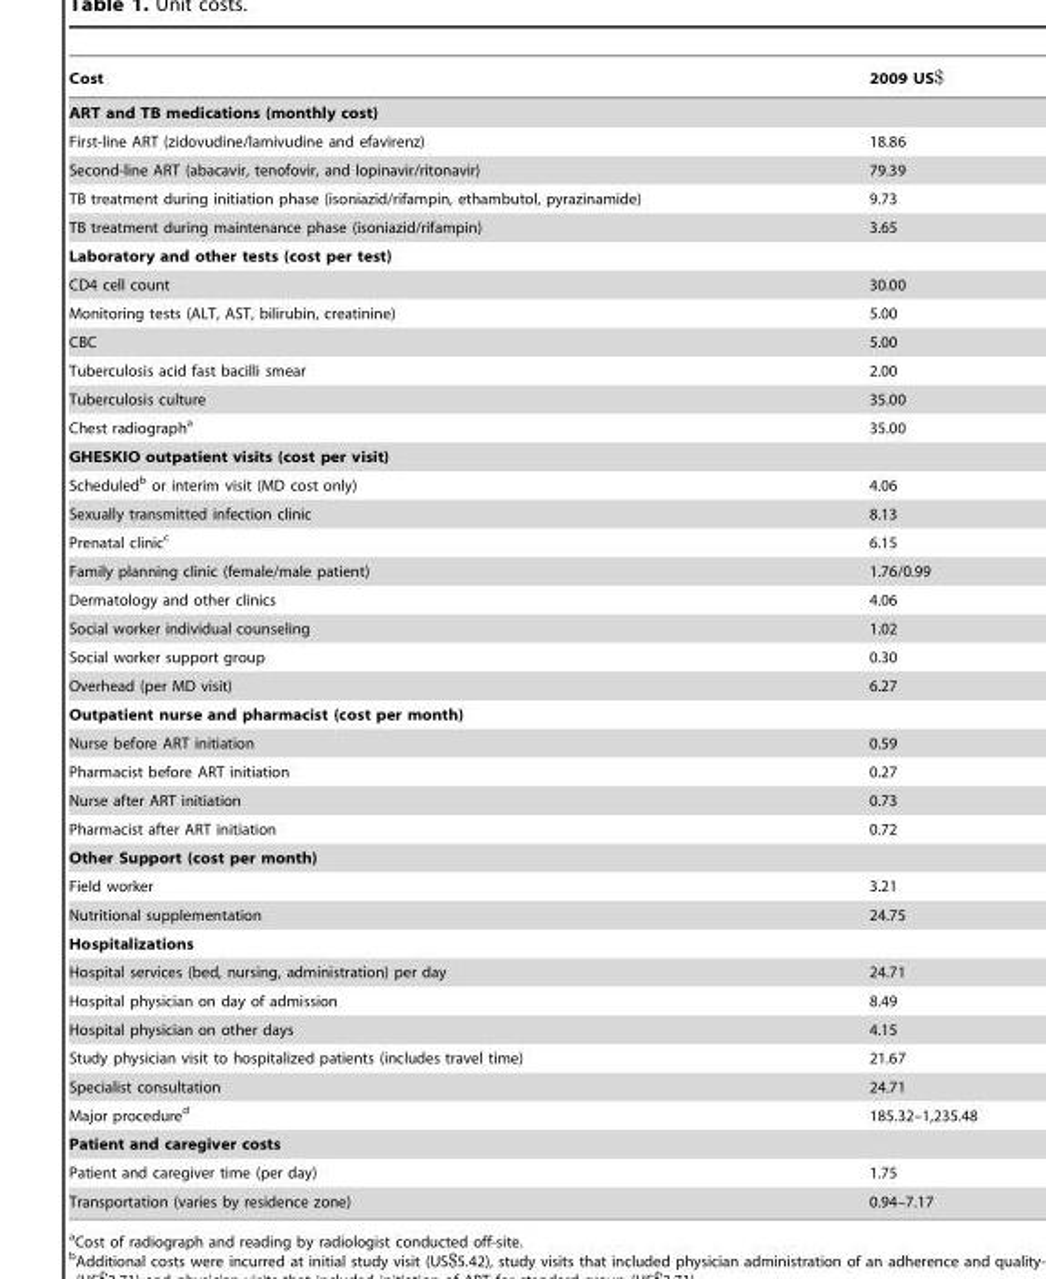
<table><thead><tr><td>Cost</td><td>2009 US$</td></tr></thead><tbody><tr><td colspan="2">ART and TB medications (monthly cost)</td></tr><tr><td>First-line ART (zidovudine/lamivudine and efavirenz)</td><td>18.86</td></tr><tr><td>Second-line ART (abacavir, tenofovir, and lopinavir/ritonavir)</td><td>79.39</td></tr><tr><td>TB treatment during initiation phase (isoniazid/rifampin, ethambutol, pyrazinamide)</td><td>9.73</td></tr><tr><td>TB treatment during maintenance phase (isoniazid/rifampin)</td><td>3.65</td></tr><tr><td colspan="2">Laboratory and other tests (cost per test)</td></tr><tr><td>CD4 cell count</td><td>30.00</td></tr><tr><td>Monitoring tests (ALT, AST, bilirubin, creatinine)</td><td>5.00</td></tr><tr><td>CBC</td><td>5.00</td></tr><tr><td>Tuberculosis acid fast bacilli smear</td><td>2.00</td></tr><tr><td>Tuberculosis culture</td><td>35.00</td></tr><tr><td>Chest radiograph<sup>a</sup></td><td>35.00</td></tr><tr><td colspan="2">GHESKIO outpatient visits (cost per visit)</td></tr><tr><td>Scheduled<sup>b</sup> or interim visit (MD cost only)</td><td>4.06</td></tr><tr><td>Sexually transmitted infection clinic</td><td>8.13</td></tr><tr><td>Prenatal clinic<sup>c</sup></td><td>6.15</td></tr><tr><td>Family planning clinic (female/male patient)</td><td>1.76/0.99</td></tr><tr><td>Dermatology and other clinics</td><td>4.06</td></tr><tr><td>Social worker individual counseling</td><td>1.02</td></tr><tr><td>Social worker support group</td><td>0.30</td></tr><tr><td>Overhead (per MD visit)</td><td>6.27</td></tr><tr><td colspan="2">Outpatient nurse and pharmacist (cost per month)</td></tr><tr><td>Nurse before ART initiation</td><td>0.59</td></tr><tr><td>Pharmacist before ART initiation</td><td>0.27</td></tr><tr><td>Nurse after ART initiation</td><td>0.73</td></tr><tr><td>Pharmacist after ART initiation</td><td>0.72</td></tr><tr><td colspan="2">Other Support (cost per month)</td></tr><tr><td>Field worker</td><td>3.21</td></tr><tr><td>Nutritional supplementation</td><td>24.75</td></tr><tr><td colspan="2">Hospitalizations</td></tr><tr><td>Hospital services (bed, nursing, administration) per day</td><td>24.71</td></tr><tr><td>Hospital physician on day of admission</td><td>8.49</td></tr><tr><td>Hospital physician on other days</td><td>4.15</td></tr><tr><td>Study physician visit to hospitalized patients (includes travel time)</td><td>21.67</td></tr><tr><td>Specialist consultation</td><td>24.71</td></tr><tr><td>Major procedure<sup>d</sup></td><td>185.32–1,235.48</td></tr><tr><td colspan="2">Patient and caregiver costs</td></tr><tr><td>Patient and caregiver time (per day)</td><td>1.75</td></tr><tr><td>Transportation (varies by residence zone)</td><td>0.94–7.17</td></tr></tbody></table>